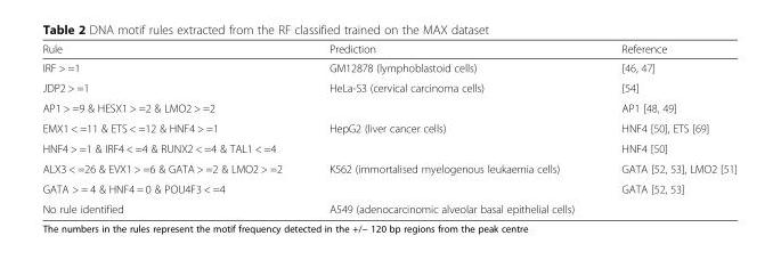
<table><thead><tr><td>Rule</td><td>Prediction</td><td>Reference</td></tr></thead><tbody><tr><td>IRF &gt; =1</td><td>GM12878 (lymphoblastoid cells)</td><td>[46, 47]</td></tr><tr><td>JDP2 &gt; =1</td><td rowspan="2">HeLa-S3 (cervical carcinoma cells)</td><td>[54]</td></tr><tr><td>AP1 &gt; =9 &amp; HESX1 &gt; =2 &amp; LMO2 &gt; =2</td><td>AP1 [48, 49]</td></tr><tr><td>EMX1 &lt; =11 &amp; ETS &lt; =12 &amp; HNF4 &gt; =1</td><td rowspan="2">HepG2 (liver cancer cells)</td><td>HNF4 [50], ETS [69]</td></tr><tr><td>HNF4 &gt; =1 &amp; IRF4 &lt; =4 &amp; RUNX2 &lt; =4 &amp; TAL1 &lt; =4</td><td>HNF4 [50]</td></tr><tr><td>ALX3 &lt; =26 &amp; EVX1 &gt; =6 &amp; GATA &gt; =2 &amp; LMO2 &gt; =2</td><td rowspan="2">K562 (immortalised myelogenous leukaemia cells)</td><td>GATA [52, 53], LMO2 [51]</td></tr><tr><td>GATA &gt; = 4 &amp; HNF4 = 0 &amp; POU4F3 &lt; =4</td><td>GATA [52, 53]</td></tr><tr><td>No rule identified</td><td>A549 (adenocarcinomic alveolar basal epithelial cells)</td><td></td></tr></tbody></table>